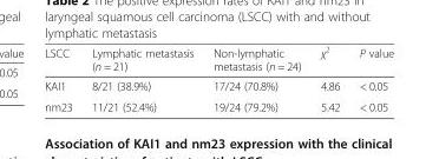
<table><thead><tr><td>LSCC</td><td>Lymphatic metastasis (n = 21)</td><td>Non-lymphatic metastasis (n = 24)</td><td>χ2</td><td>P value</td></tr></thead><tbody><tr><td>KAI1</td><td>8/21 (38.9%)</td><td>17/24 (70.8%)</td><td>4.86</td><td>&lt; 0.05</td></tr><tr><td>nm23</td><td>11/21 (52.4%)</td><td>19/24 (79.2%)</td><td>5.42</td><td>&lt; 0.05</td></tr></tbody></table>